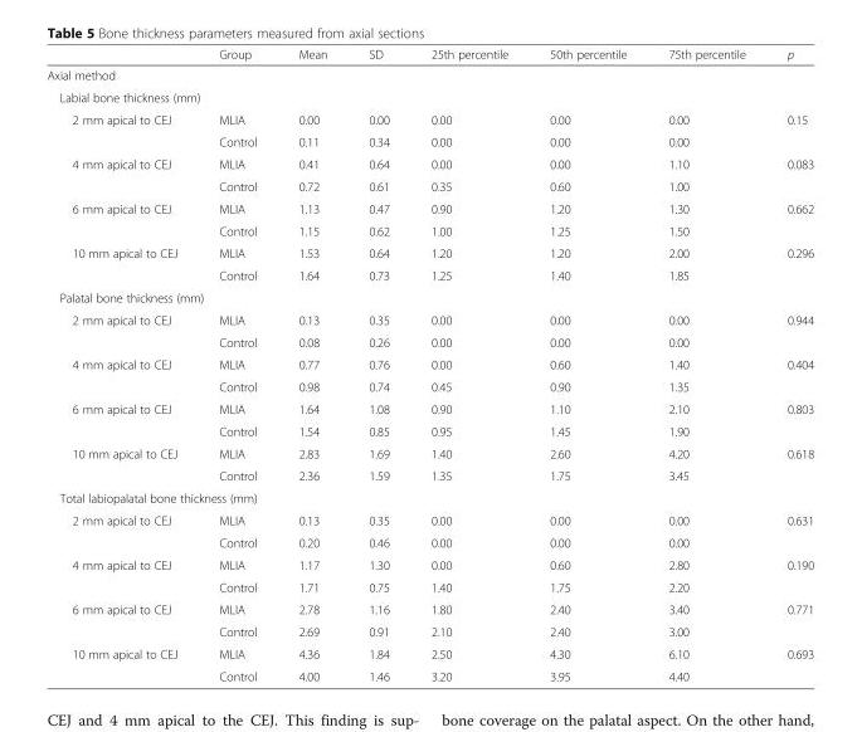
<table><thead><tr><td></td><td>Group</td><td>Mean</td><td>SD</td><td>25th percentile</td><td>50th percentile</td><td>75th percentile</td><td>p</td></tr></thead><tbody><tr><td colspan="8">Axial method</td></tr><tr><td colspan="8">Labial bone thickness (mm)</td></tr><tr><td rowspan="2">2 mm apical to CEJ</td><td>MLIA</td><td>0.00</td><td>0.00</td><td>0.00</td><td>0.00</td><td>0.00</td><td rowspan="2">0.15</td></tr><tr><td>Control</td><td>0.11</td><td>0.34</td><td>0.00</td><td>0.00</td><td>0.00</td></tr><tr><td rowspan="2">4 mm apical to CEJ</td><td>MLIA</td><td>0.41</td><td>0.64</td><td>0.00</td><td>0.00</td><td>1.10</td><td rowspan="2">0.083</td></tr><tr><td>Control</td><td>0.72</td><td>0.61</td><td>0.35</td><td>0.60</td><td>1.00</td></tr><tr><td rowspan="2">6 mm apical to CEJ</td><td>MLIA</td><td>1.13</td><td>0.47</td><td>0.90</td><td>1.20</td><td>1.30</td><td rowspan="2">0.662</td></tr><tr><td>Control</td><td>1.15</td><td>0.62</td><td>1.00</td><td>1.25</td><td>1.50</td></tr><tr><td rowspan="2">10 mm apical to CEJ</td><td>MLIA</td><td>1.53</td><td>0.64</td><td>1.20</td><td>1.20</td><td>2.00</td><td>0.296</td></tr><tr><td>Control</td><td>1.64</td><td>0.73</td><td>1.25</td><td>1.40</td><td>1.85</td><td></td></tr><tr><td colspan="8">Palatal bone thickness (mm)</td></tr><tr><td rowspan="2">2 mm apical to CEJ</td><td>MLIA</td><td>0.13</td><td>0.35</td><td>0.00</td><td>0.00</td><td>0.00</td><td>0.944</td></tr><tr><td>Control</td><td>0.08</td><td>0.26</td><td>0.00</td><td>0.00</td><td>0.00</td><td></td></tr><tr><td rowspan="2">4 mm apical to CEJ</td><td>MLIA</td><td>0.77</td><td>0.76</td><td>0.00</td><td>0.60</td><td>1.40</td><td>0.404</td></tr><tr><td>Control</td><td>0.98</td><td>0.74</td><td>0.45</td><td>0.90</td><td>1.35</td><td></td></tr><tr><td rowspan="2">6 mm apical to CEJ</td><td>MLIA</td><td>1.64</td><td>1.08</td><td>0.90</td><td>1.10</td><td>2.10</td><td>0.803</td></tr><tr><td>Control</td><td>1.54</td><td>0.85</td><td>0.95</td><td>1.45</td><td>1.90</td><td></td></tr><tr><td rowspan="2">10 mm apical to CEJ</td><td>MLIA</td><td>2.83</td><td>1.69</td><td>1.40</td><td>2.60</td><td>4.20</td><td>0.618</td></tr><tr><td>Control</td><td>2.36</td><td>1.59</td><td>1.35</td><td>1.75</td><td>3.45</td><td></td></tr><tr><td colspan="8">Total labiopalatal bone thickness (mm)</td></tr><tr><td rowspan="2">2 mm apical to CEJ</td><td>MLIA</td><td>0.13</td><td>0.35</td><td>0.00</td><td>0.00</td><td>0.00</td><td>0.631</td></tr><tr><td>Control</td><td>0.20</td><td>0.46</td><td>0.00</td><td>0.00</td><td>0.00</td><td></td></tr><tr><td rowspan="2">4 mm apical to CEJ</td><td>MLIA</td><td>1.17</td><td>1.30</td><td>0.00</td><td>0.60</td><td>2.80</td><td>0.190</td></tr><tr><td>Control</td><td>1.71</td><td>0.75</td><td>1.40</td><td>1.75</td><td>2.20</td><td></td></tr><tr><td rowspan="2">6 mm apical to CEJ</td><td>MLIA</td><td>2.78</td><td>1.16</td><td>1.80</td><td>2.40</td><td>3.40</td><td>0.771</td></tr><tr><td>Control</td><td>2.69</td><td>0.91</td><td>2.10</td><td>2.40</td><td>3.00</td><td></td></tr><tr><td rowspan="2">10 mm apical to CEJ</td><td>MLIA</td><td>4.36</td><td>1.84</td><td>2.50</td><td>4.30</td><td>6.10</td><td>0.693</td></tr><tr><td>Control</td><td>4.00</td><td>1.46</td><td>3.20</td><td>3.95</td><td>4.40</td><td></td></tr></tbody></table>